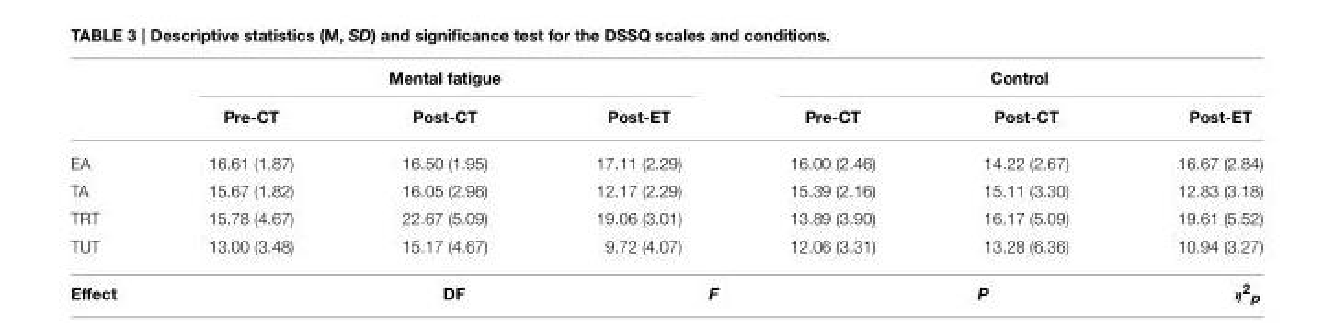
<table><thead><tr><td rowspan="2"></td><td colspan="3">Mental fatigue</td><td colspan="3">Control</td></tr><tr><td>Pre-CT</td><td>Post-CT</td><td>Post-ET</td><td>Pre-CT</td><td>Post-CT</td><td>Post-ET</td></tr></thead><tbody><tr><td>EA</td><td>16.61 (1.87)</td><td>16.50 (1.95)</td><td>17.11 (2.29)</td><td>16.00 (2.46)</td><td>14.22 (2.67)</td><td>16.67 (2.84)</td></tr><tr><td>TA</td><td>15.67 (1.82)</td><td>16.05 (2.96)</td><td>12.17 (2.29)</td><td>15.39 (2.16)</td><td>15.11 (3.30)</td><td>12.83 (3.18)</td></tr><tr><td>TRT</td><td>15.78 (4.67)</td><td>22.67 (5.09)</td><td>19.06 (3.01)</td><td>13.89 (3.90)</td><td>16.17 (5.09)</td><td>19.61 (5.52)</td></tr><tr><td>TUT</td><td>13.00 (3.48)</td><td>15.17 (4.67)</td><td>9.72 (4.07)</td><td>12.06 (3.31)</td><td>13.28 (6.36)</td><td>10.94 (3.27)</td></tr></tbody></table>